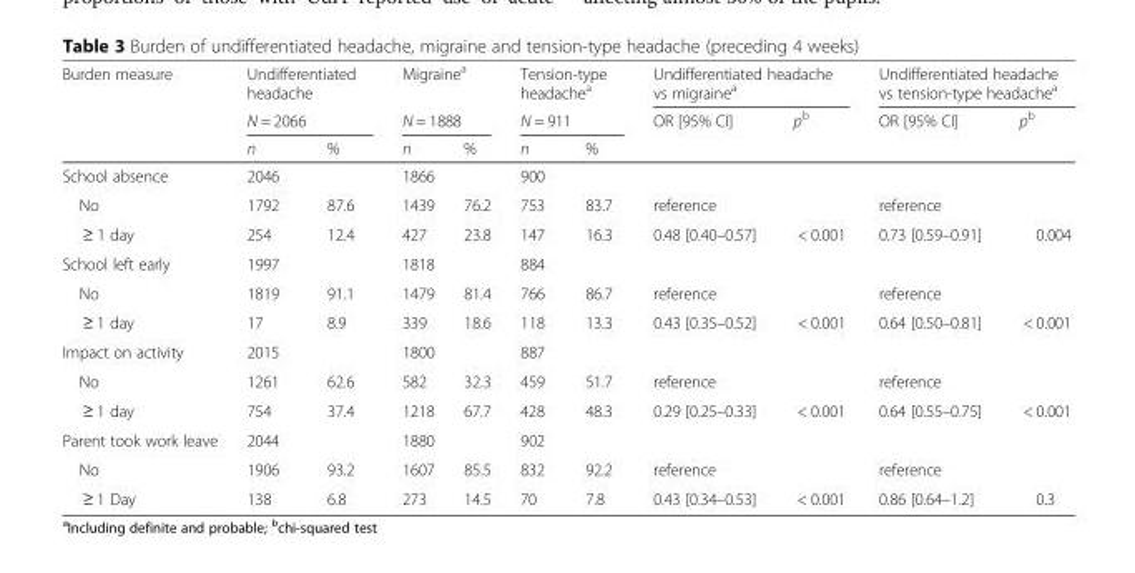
<table><thead><tr><td rowspan="3">Burden measure</td><td rowspan="2" colspan="2">Undifferentiated headache N = 2066</td><td rowspan="2" colspan="2">Migraine<sup>a</sup> N = 1888</td><td rowspan="2" colspan="2">Tension-type headache<sup>a</sup> N = 911</td><td colspan="2">Undifferentiated headache vs migraine<sup>a</sup></td><td colspan="2">Undifferentiated headache vs tension-type headache<sup>a</sup></td></tr><tr><td rowspan="2">OR [95% CI]</td><td rowspan="2">p<sup>b</sup></td><td rowspan="2">OR [95% CI]</td><td rowspan="2">p<sup>b</sup></td></tr><tr><td>n</td><td>%</td><td>n</td><td>%</td><td>n</td><td>%</td></tr></thead><tbody><tr><td>School absence</td><td>2046</td><td></td><td>1866</td><td></td><td>900</td><td></td><td colspan="4"></td></tr><tr><td>No</td><td>1792</td><td>87.6</td><td>1439</td><td>76.2</td><td>753</td><td>83.7</td><td>reference</td><td></td><td>reference</td><td></td></tr><tr><td>≥ 1 day</td><td>254</td><td>12.4</td><td>427</td><td>23.8</td><td>147</td><td>16.3</td><td>0.48 [0.40–0.57]</td><td>&lt; 0.001</td><td>0.73 [0.59–0.91]</td><td>0.004</td></tr><tr><td>School left early</td><td>1997</td><td></td><td>1818</td><td></td><td>884</td><td></td><td colspan="4"></td></tr><tr><td>No</td><td>1819</td><td>91.1</td><td>1479</td><td>81.4</td><td>766</td><td>86.7</td><td>reference</td><td></td><td>reference</td><td></td></tr><tr><td>≥ 1 day</td><td>17</td><td>8.9</td><td>339</td><td>18.6</td><td>118</td><td>13.3</td><td>0.43 [0.35–0.52]</td><td>&lt; 0.001</td><td>0.64 [0.50–0.81]</td><td>&lt; 0.001</td></tr><tr><td>Impact on activity</td><td>2015</td><td></td><td>1800</td><td></td><td>887</td><td></td><td colspan="4"></td></tr><tr><td>No</td><td>1261</td><td>62.6</td><td>582</td><td>32.3</td><td>459</td><td>51.7</td><td>reference</td><td></td><td>reference</td><td></td></tr><tr><td>≥ 1 day</td><td>754</td><td>37.4</td><td>1218</td><td>67.7</td><td>428</td><td>48.3</td><td>0.29 [0.25–0.33]</td><td>&lt; 0.001</td><td>0.64 [0.55–0.75]</td><td>&lt; 0.001</td></tr><tr><td>Parent took work leave</td><td>2044</td><td></td><td>1880</td><td></td><td>902</td><td></td><td colspan="4"></td></tr><tr><td>No</td><td>1906</td><td>93.2</td><td>1607</td><td>85.5</td><td>832</td><td>92.2</td><td>reference</td><td></td><td>reference</td><td></td></tr><tr><td>≥ 1 Day</td><td>138</td><td>6.8</td><td>273</td><td>14.5</td><td>70</td><td>7.8</td><td>0.43 [0.34–0.53]</td><td>&lt; 0.001</td><td>0.86 [0.64–1.2]</td><td>0.3</td></tr></tbody></table>